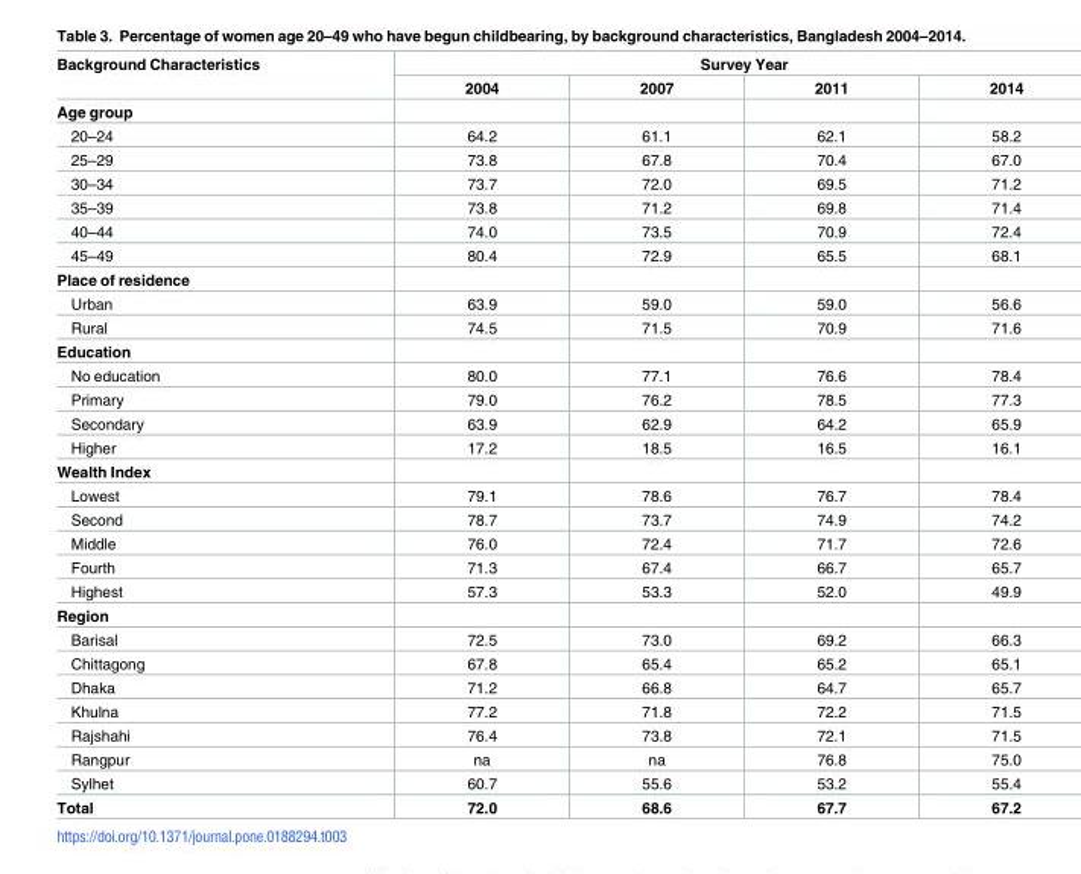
<table><thead><tr><td rowspan="2">Background Characteristics</td><td colspan="4">Survey Year</td></tr><tr><td>2004</td><td>2007</td><td>2011</td><td>2014</td></tr></thead><tbody><tr><td colspan="5">Age group</td></tr><tr><td>20–24</td><td>64.2</td><td>61.1</td><td>62.1</td><td>58.2</td></tr><tr><td>25–29</td><td>73.8</td><td>67.8</td><td>70.4</td><td>67.0</td></tr><tr><td>30–34</td><td>73.7</td><td>72.0</td><td>69.5</td><td>71.2</td></tr><tr><td>35–39</td><td>73.8</td><td>71.2</td><td>69.8</td><td>71.4</td></tr><tr><td>40–44</td><td>74.0</td><td>73.5</td><td>70.9</td><td>72.4</td></tr><tr><td>45–49</td><td>80.4</td><td>72.9</td><td>65.5</td><td>68.1</td></tr><tr><td colspan="5">Place of residence</td></tr><tr><td>Urban</td><td>63.9</td><td>59.0</td><td>59.0</td><td>56.6</td></tr><tr><td>Rural</td><td>74.5</td><td>71.5</td><td>70.9</td><td>71.6</td></tr><tr><td colspan="5">Education</td></tr><tr><td>No education</td><td>80.0</td><td>77.1</td><td>76.6</td><td>78.4</td></tr><tr><td>Primary</td><td>79.0</td><td>76.2</td><td>78.5</td><td>77.3</td></tr><tr><td>Secondary</td><td>63.9</td><td>62.9</td><td>64.2</td><td>65.9</td></tr><tr><td>Higher</td><td>17.2</td><td>18.5</td><td>16.5</td><td>16.1</td></tr><tr><td colspan="5">Wealth Index</td></tr><tr><td>Lowest</td><td>79.1</td><td>78.6</td><td>76.7</td><td>78.4</td></tr><tr><td>Second</td><td>78.7</td><td>73.7</td><td>74.9</td><td>74.2</td></tr><tr><td>Middle</td><td>76.0</td><td>72.4</td><td>71.7</td><td>72.6</td></tr><tr><td>Fourth</td><td>71.3</td><td>67.4</td><td>66.7</td><td>65.7</td></tr><tr><td>Highest</td><td>57.3</td><td>53.3</td><td>52.0</td><td>49.9</td></tr><tr><td colspan="5">Region</td></tr><tr><td>Barisal</td><td>72.5</td><td>73.0</td><td>69.2</td><td>66.3</td></tr><tr><td>Chittagong</td><td>67.8</td><td>65.4</td><td>65.2</td><td>65.1</td></tr><tr><td>Dhaka</td><td>71.2</td><td>66.8</td><td>64.7</td><td>65.7</td></tr><tr><td>Khulna</td><td>77.2</td><td>71.8</td><td>72.2</td><td>71.5</td></tr><tr><td>Rajshahi</td><td>76.4</td><td>73.8</td><td>72.1</td><td>71.5</td></tr><tr><td>Rangpur</td><td>na</td><td>na</td><td>76.8</td><td>75.0</td></tr><tr><td>Sylhet</td><td>60.7</td><td>55.6</td><td>53.2</td><td>55.4</td></tr><tr><td>Total</td><td>72.0</td><td>68.6</td><td>67.7</td><td>67.2</td></tr></tbody></table>